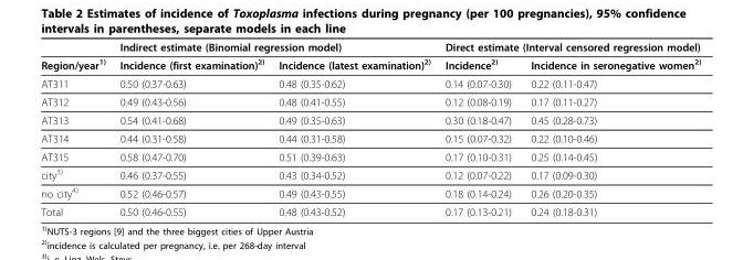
<table><thead><tr><td rowspan="2">Region/year<sup>1)</sup></td><td colspan="2">Indirect estimate (Binomial regression model)</td><td colspan="2">Direct estimate (Interval censored regression model)</td></tr><tr><td>Incidence (first examination)<sup>2)</sup></td><td>Incidence (latest examination)<sup>2)</sup></td><td>Incidence<sup>2)</sup></td><td>Incidence in seronegative women<sup>2)</sup></td></tr></thead><tbody><tr><td>AT311</td><td>0.50 (0.37-0.63)</td><td>0.48 (0.35-0.62)</td><td>0.14 (0.07-0.30)</td><td>0.22 (0.11-0.47)</td></tr><tr><td>AT312</td><td>0.49 (0.43-0.56)</td><td>0.48 (0.41-0.55)</td><td>0.12 (0.08-0.19)</td><td>0.17 (0.11-0.27)</td></tr><tr><td>AT313</td><td>0.54 (0.41-0.68)</td><td>0.49 (0.35-0.63)</td><td>0.30 (0.18-0.47)</td><td>0.45 (0.28-0.73)</td></tr><tr><td>AT314</td><td>0.44 (0.31-0.58)</td><td>0.44 (0.31-0.58)</td><td>0.15 (0.07-0.32)</td><td>0.22 (0.10-0.46)</td></tr><tr><td>AT315</td><td>0.58 (0.47-0.70)</td><td>0.51 (0.39-0.63)</td><td>0.17 (0.10-0.31)</td><td>0.25 (0.14-0.45)</td></tr><tr><td>city<sup>3)</sup></td><td>0.46 (0.37-0.55)</td><td>0.43 (0.34-0.52)</td><td>0.12 (0.07-0.22)</td><td>0.17 (0.09-0.30)</td></tr><tr><td>no city<sup>4)</sup></td><td>0.52 (0.46-0.57)</td><td>0.49 (0.43-0.55)</td><td>0.18 (0.14-0.24)</td><td>0.26 (0.20-0.35)</td></tr><tr><td>Total</td><td>0.50 (0.46-0.55)</td><td>0.48 (0.43-0.52)</td><td>0.17 (0.13-0.21)</td><td>0.24 (0.18-0.31)</td></tr></tbody></table>